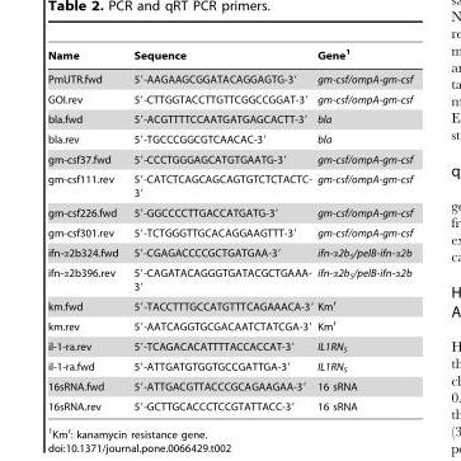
<table><thead><tr><td>Name</td><td>Sequence</td><td>Gene<sup>1</sup></td></tr></thead><tbody><tr><td>PmUTR.fwd</td><td>5′-AAGAAGCGGATACAGGAGTG-3′</td><td>gm-csf/ompA-gm-csf</td></tr><tr><td>GOI.rev</td><td>5′-CTTGGTACCTTGTTCGGCCGGAT-3′</td><td>gm-csf/ompA-gm-csf</td></tr><tr><td>bla.fwd</td><td>5′-ACGTTTTCCAATGATGAGCACTT-3′</td><td>bla</td></tr><tr><td>bla.rev</td><td>5′-TGCCCGGCGTCAACAC-3′</td><td>bla</td></tr><tr><td>gm-csf37.fwd</td><td>5′-CCCTGGGAGCATGTGAATG-3′</td><td>gm-csf/ompA-gm-csf</td></tr><tr><td>gm-csf111.rev</td><td>5′-CATCTCAGCAGCAGTGTCTCTACTC- 3′</td><td>gm-csf/ompA-gm-csf</td></tr><tr><td>gm-csf226.fwd</td><td>5′-GGCCCCTTGACCATGATG-3′</td><td>gm-csf/ompA-gm-csf</td></tr><tr><td>gm-csf301.rev</td><td>5′-TCTGGGTTGCACAGGAAGTTT-3′</td><td>gm-csf/ompA-gm-csf</td></tr><tr><td>ifn-α2b324.fwd</td><td>5′-CGAGACCCCGCTGATGAA-3′</td><td>ifn-α2b<sub>S</sub>/pelB-ifn-α2b</td></tr><tr><td>ifn-α2b396.rev</td><td>5′-CAGATACAGGGTGATACGCTGAAA- 3′</td><td>ifn-α2b<sub>S</sub>/pelB-ifn-α2b</td></tr><tr><td>km.fwd</td><td>5′-TACCTTTGCCATGTTTCAGAAACA-3′</td><td>Km<sup>r</sup></td></tr><tr><td>km.rev</td><td>5′-AATCAGGTGCGACAATCTATCGA-3′</td><td>Km<sup>r</sup></td></tr><tr><td>il-1-ra.rev</td><td>5′-TCAGACACATTTTACCACCAT-3′</td><td>IL1RN<sub>S</sub></td></tr><tr><td>il-1-ra.fwd</td><td>5′-ATTGATGTGGTGCCGATTGA-3′</td><td>IL1RN<sub>S</sub></td></tr><tr><td>16sRNA.fwd</td><td>5′-ATTGACGTTACCCGCAGAAGAA-3′</td><td>16 sRNA</td></tr><tr><td>16sRNA.rev</td><td>5′-GCTTGCACCCTCCGTATTACC-3′</td><td>16 sRNA</td></tr></tbody></table>